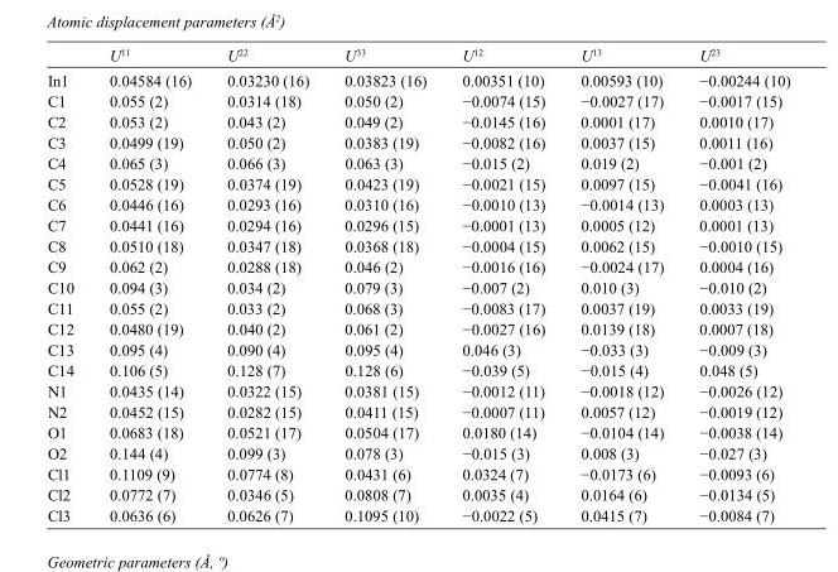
<table><thead><tr><td></td><td>U<sup>11</sup></td><td>U<sup>22</sup></td><td>U<sup>33</sup></td><td>U<sup>12</sup></td><td>U<sup>13</sup></td><td>U<sup>23</sup></td></tr></thead><tbody><tr><td>In1</td><td>0.04584 (16)</td><td>0.03230 (16)</td><td>0.03823 (16)</td><td>0.00351 (10)</td><td>0.00593 (10)</td><td>−0.00244 (10)</td></tr><tr><td>C1</td><td>0.055 (2)</td><td>0.0314 (18)</td><td>0.050 (2)</td><td>−0.0074 (15)</td><td>−0.0027 (17)</td><td>−0.0017 (15)</td></tr><tr><td>C2</td><td>0.053 (2)</td><td>0.043 (2)</td><td>0.049 (2)</td><td>−0.0145 (16)</td><td>0.0001 (17)</td><td>0.0010 (17)</td></tr><tr><td>C3</td><td>0.0499 (19)</td><td>0.050 (2)</td><td>0.0383 (19)</td><td>−0.0082 (16)</td><td>0.0037 (15)</td><td>0.0011 (16)</td></tr><tr><td>C4</td><td>0.065 (3)</td><td>0.066 (3)</td><td>0.063 (3)</td><td>−0.015 (2)</td><td>0.019 (2)</td><td>−0.001 (2)</td></tr><tr><td>C5</td><td>0.0528 (19)</td><td>0.0374 (19)</td><td>0.0423 (19)</td><td>−0.0021 (15)</td><td>0.0097 (15)</td><td>−0.0041 (16)</td></tr><tr><td>C6</td><td>0.0446 (16)</td><td>0.0293 (16)</td><td>0.0310 (16)</td><td>−0.0010 (13)</td><td>−0.0014 (13)</td><td>0.0003 (13)</td></tr><tr><td>C7</td><td>0.0441 (16)</td><td>0.0294 (16)</td><td>0.0296 (15)</td><td>−0.0001 (13)</td><td>0.0005 (12)</td><td>0.0001 (13)</td></tr><tr><td>C8</td><td>0.0510 (18)</td><td>0.0347 (18)</td><td>0.0368 (18)</td><td>−0.0004 (15)</td><td>0.0062 (15)</td><td>−0.0010 (15)</td></tr><tr><td>C9</td><td>0.062 (2)</td><td>0.0288 (18)</td><td>0.046 (2)</td><td>−0.0016 (16)</td><td>−0.0024 (17)</td><td>0.0004 (16)</td></tr><tr><td>C10</td><td>0.094 (3)</td><td>0.034 (2)</td><td>0.079 (3)</td><td>−0.007 (2)</td><td>0.010 (3)</td><td>−0.010 (2)</td></tr><tr><td>C11</td><td>0.055 (2)</td><td>0.033 (2)</td><td>0.068 (3)</td><td>−0.0083 (17)</td><td>0.0037 (19)</td><td>0.0033 (19)</td></tr><tr><td>C12</td><td>0.0480 (19)</td><td>0.040 (2)</td><td>0.061 (2)</td><td>−0.0027 (16)</td><td>0.0139 (18)</td><td>0.0007 (18)</td></tr><tr><td>C13</td><td>0.095 (4)</td><td>0.090 (4)</td><td>0.095 (4)</td><td>0.046 (3)</td><td>−0.033 (3)</td><td>−0.009 (3)</td></tr><tr><td>C14</td><td>0.106 (5)</td><td>0.128 (7)</td><td>0.128 (6)</td><td>−0.039 (5)</td><td>−0.015 (4)</td><td>0.048 (5)</td></tr><tr><td>N1</td><td>0.0435 (14)</td><td>0.0322 (15)</td><td>0.0381 (15)</td><td>−0.0012 (11)</td><td>−0.0018 (12)</td><td>−0.0026 (12)</td></tr><tr><td>N2</td><td>0.0452 (15)</td><td>0.0282 (15)</td><td>0.0411 (15)</td><td>−0.0007 (11)</td><td>0.0057 (12)</td><td>−0.0019 (12)</td></tr><tr><td>O1</td><td>0.0683 (18)</td><td>0.0521 (17)</td><td>0.0504 (17)</td><td>0.0180 (14)</td><td>−0.0104 (14)</td><td>−0.0038 (14)</td></tr><tr><td>O2</td><td>0.144 (4)</td><td>0.099 (3)</td><td>0.078 (3)</td><td>−0.015 (3)</td><td>0.008 (3)</td><td>−0.027 (3)</td></tr><tr><td>Cl1</td><td>0.1109 (9)</td><td>0.0774 (8)</td><td>0.0431 (6)</td><td>0.0324 (7)</td><td>−0.0173 (6)</td><td>−0.0093 (6)</td></tr><tr><td>Cl2</td><td>0.0772 (7)</td><td>0.0346 (5)</td><td>0.0808 (7)</td><td>0.0035 (4)</td><td>0.0164 (6)</td><td>−0.0134 (5)</td></tr><tr><td>Cl3</td><td>0.0636 (6)</td><td>0.0626 (7)</td><td>0.1095 (10)</td><td>−0.0022 (5)</td><td>0.0415 (7)</td><td>−0.0084 (7)</td></tr></tbody></table>